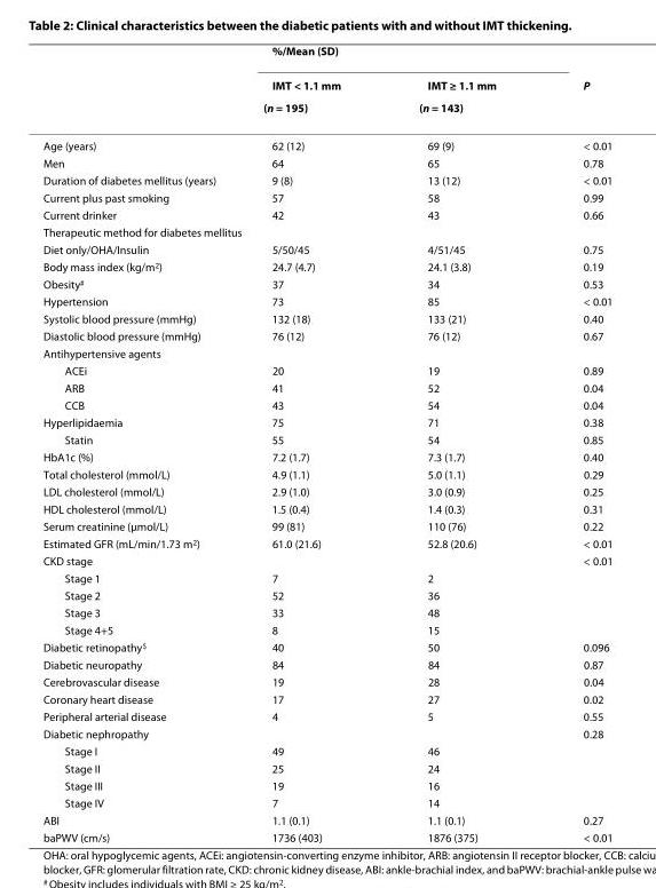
<table><thead><tr><td rowspan="3"></td><td colspan="2">%/Mean (SD)</td><td rowspan="3">P</td></tr><tr><td rowspan="2">IMT &lt; 1.1 mm (n = 195)</td><td rowspan="2">IMT ≥ 1.1 mm (n = 143)</td></tr><tr></tr></thead><tbody><tr><td>Age (years)</td><td>62 (12)</td><td>69 (9)</td><td>&lt; 0.01</td></tr><tr><td>Men</td><td>64</td><td>65</td><td>0.78</td></tr><tr><td>Duration of diabetes mellitus (years)</td><td>9 (8)</td><td>13 (12)</td><td>&lt; 0.01</td></tr><tr><td>Current plus past smoking</td><td>57</td><td>58</td><td>0.99</td></tr><tr><td>Current drinker</td><td>42</td><td>43</td><td>0.66</td></tr><tr><td colspan="4">Therapeutic method for diabetes mellitus</td></tr><tr><td>Diet only/OHA/Insulin</td><td>5/50/45</td><td>4/51/45</td><td>0.75</td></tr><tr><td>Body mass index (kg/m<sup>2</sup>)</td><td>24.7 (4.7)</td><td>24.1 (3.8)</td><td>0.19</td></tr><tr><td>Obesity<sup>#</sup></td><td>37</td><td>34</td><td>0.53</td></tr><tr><td>Hypertension</td><td>73</td><td>85</td><td>&lt; 0.01</td></tr><tr><td>Systolic blood pressure (mmHg)</td><td>132 (18)</td><td>133 (21)</td><td>0.40</td></tr><tr><td>Diastolic blood pressure (mmHg)</td><td>76 (12)</td><td>76 (12)</td><td>0.67</td></tr><tr><td colspan="4">Antihypertensive agents</td></tr><tr><td>ACEi</td><td>20</td><td>19</td><td>0.89</td></tr><tr><td>ARB</td><td>41</td><td>52</td><td>0.04</td></tr><tr><td>CCB</td><td>43</td><td>54</td><td>0.04</td></tr><tr><td>Hyperlipidaemia</td><td>75</td><td>71</td><td>0.38</td></tr><tr><td>Statin</td><td>55</td><td>54</td><td>0.85</td></tr><tr><td>HbA1c (%)</td><td>7.2 (1.7)</td><td>7.3 (1.7)</td><td>0.40</td></tr><tr><td>Total cholesterol (mmol/L)</td><td>4.9 (1.1)</td><td>5.0 (1.1)</td><td>0.29</td></tr><tr><td>LDL cholesterol (mmol/L)</td><td>2.9 (1.0)</td><td>3.0 (0.9)</td><td>0.25</td></tr><tr><td>HDL cholesterol (mmol/L)</td><td>1.5 (0.4)</td><td>1.4 (0.3)</td><td>0.31</td></tr><tr><td>Serum creatinine (μmol/L)</td><td>99 (81)</td><td>110 (76)</td><td>0.22</td></tr><tr><td>Estimated GFR (mL/min/1.73 m<sup>2</sup>)</td><td>61.0 (21.6)</td><td>52.8 (20.6)</td><td>&lt; 0.01</td></tr><tr><td>CKD stage</td><td></td><td></td><td>&lt; 0.01</td></tr><tr><td>Stage 1</td><td>7</td><td>2</td><td></td></tr><tr><td>Stage 2</td><td>52</td><td>36</td><td></td></tr><tr><td>Stage 3</td><td>33</td><td>48</td><td></td></tr><tr><td>Stage 4+5</td><td>8</td><td>15</td><td></td></tr><tr><td>Diabetic retinopathy<sup>$</sup></td><td>40</td><td>50</td><td>0.096</td></tr><tr><td>Diabetic neuropathy</td><td>84</td><td>84</td><td>0.87</td></tr><tr><td>Cerebrovascular disease</td><td>19</td><td>28</td><td>0.04</td></tr><tr><td>Coronary heart disease</td><td>17</td><td>27</td><td>0.02</td></tr><tr><td>Peripheral arterial disease</td><td>4</td><td>5</td><td>0.55</td></tr><tr><td>Diabetic nephropathy</td><td></td><td></td><td>0.28</td></tr><tr><td>Stage I</td><td>49</td><td>46</td><td></td></tr><tr><td>Stage II</td><td>25</td><td>24</td><td></td></tr><tr><td>Stage III</td><td>19</td><td>16</td><td></td></tr><tr><td>Stage IV</td><td>7</td><td>14</td><td></td></tr><tr><td>ABI</td><td>1.1 (0.1)</td><td>1.1 (0.1)</td><td>0.27</td></tr><tr><td>baPWV (cm/s)</td><td>1736 (403)</td><td>1876 (375)</td><td>&lt; 0.01</td></tr></tbody></table>